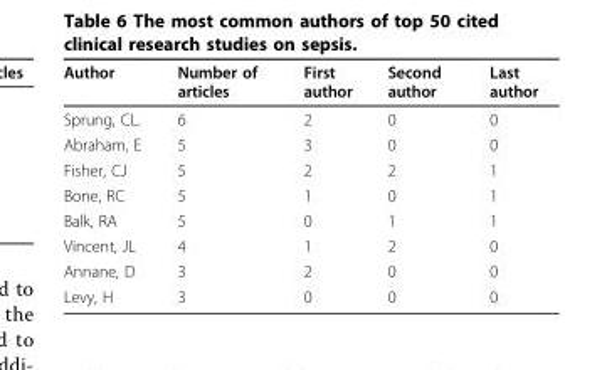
<table><thead><tr><td>Author</td><td>Number of articles</td><td>First author</td><td>Second author</td><td>Last author</td></tr></thead><tbody><tr><td>Sprung, CL.</td><td>6</td><td>2</td><td>0</td><td>0</td></tr><tr><td>Abraham, E</td><td>5</td><td>3</td><td>0</td><td>0</td></tr><tr><td>Fisher, CJ</td><td>5</td><td>2</td><td>2</td><td>1</td></tr><tr><td>Bone, RC</td><td>5</td><td>1</td><td>0</td><td>1</td></tr><tr><td>Balk, RA</td><td>5</td><td>0</td><td>1</td><td>1</td></tr><tr><td>Vincent, JL</td><td>4</td><td>1</td><td>2</td><td>0</td></tr><tr><td>Annane, D</td><td>3</td><td>2</td><td>0</td><td>0</td></tr><tr><td>Levy, H</td><td>3</td><td>0</td><td>0</td><td>0</td></tr></tbody></table>